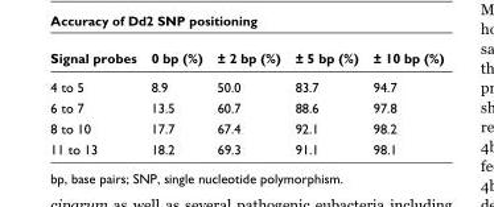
<table><thead><tr><td>Signal probes</td><td>0 bp (%)</td><td>± 2 bp (%)</td><td>± 5 bp (%)</td><td>± 10 bp (%)</td></tr></thead><tbody><tr><td>4 to 5</td><td>8.9</td><td>50.0</td><td>83.7</td><td>94.7</td></tr><tr><td>6 to 7</td><td>13.5</td><td>60.7</td><td>88.6</td><td>97.8</td></tr><tr><td>8 to 10</td><td>17.7</td><td>67.4</td><td>92.1</td><td>98.2</td></tr><tr><td>11 to 13</td><td>18.2</td><td>69.3</td><td>91.1</td><td>98.1</td></tr></tbody></table>